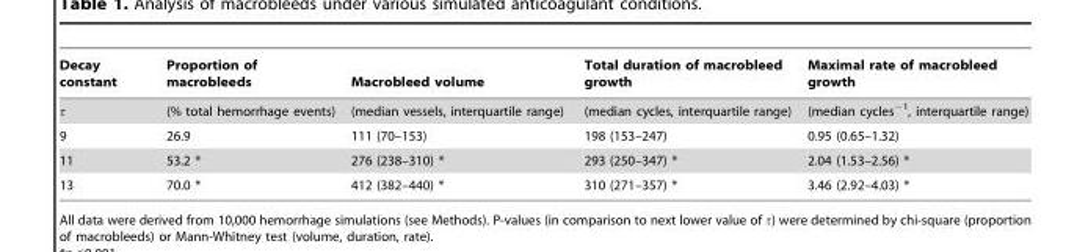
<table><thead><tr><td>Decay constant</td><td>Proportion of macrobleeds</td><td>Macrobleed volume</td><td>Total duration of macrobleed growth</td><td>Maximal rate of macrobleed growth</td></tr></thead><tbody><tr><td>τ</td><td>(% total hemorrhage events)</td><td>(median vessels, interquartile range)</td><td>(median cycles, interquartile range)</td><td>(median cycles<sup>−1</sup>, interquartile range)</td></tr><tr><td>9</td><td>26.9</td><td>111 (70–153)</td><td>198 (153–247)</td><td>0.95 (0.65–1.32)</td></tr><tr><td>11</td><td>53.2 *</td><td>276 (238–310) *</td><td>293 (250–347) *</td><td>2.04 (1.53–2.56) *</td></tr><tr><td>13</td><td>70.0 *</td><td>412 (382–440) *</td><td>310 (271–357) *</td><td>3.46 (2.92–4.03) *</td></tr></tbody></table>